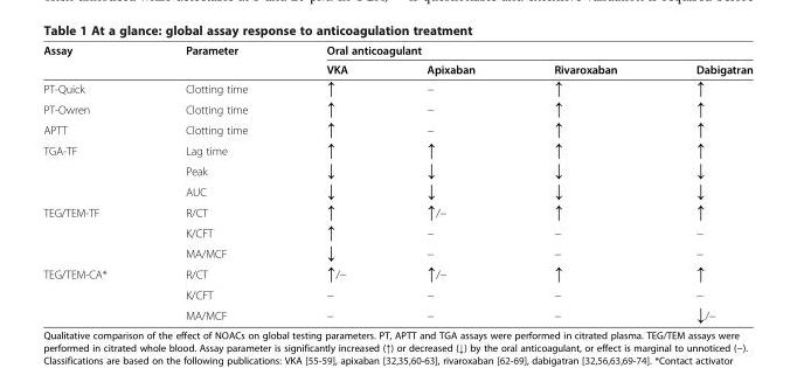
<table><thead><tr><td rowspan="2">Assay</td><td rowspan="2">Parameter</td><td colspan="4">Oral anticoagulant</td></tr><tr><td>VKA</td><td>Apixaban</td><td>Rivaroxaban</td><td>Dabigatran</td></tr></thead><tbody><tr><td>PT-Quick</td><td>Clotting time</td><td>↑</td><td>−</td><td>↑</td><td>↑</td></tr><tr><td>PT-Owren</td><td>Clotting time</td><td>↑</td><td>−</td><td>↑</td><td>↑</td></tr><tr><td>APTT</td><td>Clotting time</td><td>↑</td><td>−</td><td>↑</td><td>↑</td></tr><tr><td rowspan="3">TGA-TF</td><td>Lag time</td><td>↑</td><td>↑</td><td>↑</td><td>↑</td></tr><tr><td>Peak</td><td>↓</td><td>↓</td><td>↓</td><td>↓</td></tr><tr><td>AUC</td><td>↓</td><td>↓</td><td>↓</td><td>↓</td></tr><tr><td rowspan="3">TEG/TEM-TF</td><td>R/CT</td><td>↑</td><td>↑/−</td><td>↑</td><td>↑</td></tr><tr><td>K/CFT</td><td>↑</td><td>−</td><td>−</td><td>−</td></tr><tr><td>MA/MCF</td><td>↓</td><td>−</td><td>−</td><td>−</td></tr><tr><td rowspan="3">TEG/TEM-CA*</td><td>R/CT</td><td>↑/−</td><td>↑/−</td><td>↑</td><td>↑</td></tr><tr><td>K/CFT</td><td>−</td><td>−</td><td>−</td><td>−</td></tr><tr><td>MA/MCF</td><td>−</td><td>−</td><td>−</td><td>↓/−</td></tr></tbody></table>